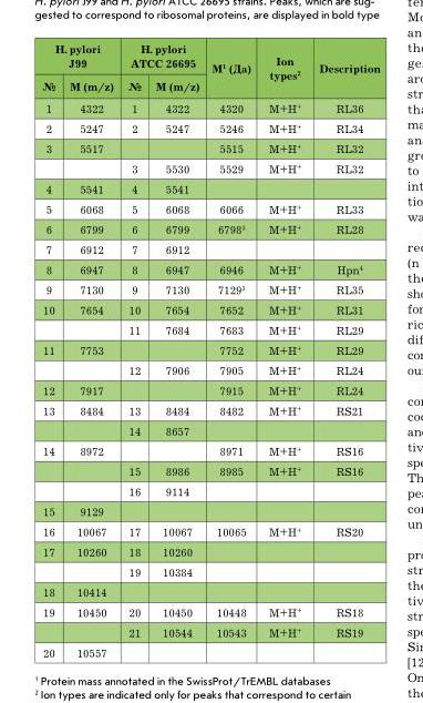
<table><thead><tr><td colspan="2">H. pylori J99</td><td colspan="2">H. pylori АТСС 26695</td><td rowspan="2">M1 (Да)</td><td rowspan="2">Ion types2</td><td rowspan="2">Description</td></tr><tr><td>№</td><td>M (m/z)</td><td>№</td><td>M (m/z)</td></tr></thead><tbody><tr><td>1</td><td>4322</td><td>1</td><td>4322</td><td>4320</td><td>M+H<sup>+</sup></td><td>rL36</td></tr><tr><td>2</td><td>5247</td><td>2</td><td>5247</td><td>5246</td><td>M+H<sup>+</sup></td><td>rL34</td></tr><tr><td rowspan="2">3</td><td>5517</td><td></td><td></td><td>5515</td><td>M+H<sup>+</sup></td><td>rL32</td></tr><tr><td></td><td>3</td><td>5530</td><td>5529</td><td>M+H<sup>+</sup></td><td>rL32</td></tr><tr><td>4</td><td>5541</td><td>4</td><td>5541</td><td></td><td></td><td></td></tr><tr><td>5</td><td>6068</td><td>5</td><td>6068</td><td>6066</td><td>M+H<sup>+</sup></td><td>rL33</td></tr><tr><td>6</td><td>6799</td><td>6</td><td>6799</td><td>6798<sup>3</sup></td><td>M+H<sup>+</sup></td><td>rL28</td></tr><tr><td>7</td><td>6912</td><td>7</td><td>6912</td><td></td><td></td><td></td></tr><tr><td>8</td><td>6947</td><td>8</td><td>6947</td><td>6946</td><td>M+H<sup>+</sup></td><td>Hpn<sup>4</sup></td></tr><tr><td>9</td><td>7130</td><td>9</td><td>7130</td><td>7129<sup>3</sup></td><td>M+H<sup>+</sup></td><td>rL35</td></tr><tr><td rowspan="2">10</td><td>7654</td><td>10</td><td>7654</td><td>7652</td><td>M+H<sup>+</sup></td><td>rL31</td></tr><tr><td></td><td>11</td><td>7684</td><td>7683</td><td>M+H<sup>+</sup></td><td>rL29</td></tr><tr><td rowspan="2">11</td><td>7753</td><td></td><td></td><td>7752</td><td>M+H<sup>+</sup></td><td>rL29</td></tr><tr><td></td><td>12</td><td>7906</td><td>7905</td><td>M+H<sup>+</sup></td><td>rL24</td></tr><tr><td>12</td><td>7917</td><td></td><td></td><td>7915</td><td>M+H<sup>+</sup></td><td>rL24</td></tr><tr><td rowspan="2">13</td><td>8484</td><td>13</td><td>8484</td><td>8482</td><td>M+H<sup>+</sup></td><td>rS21</td></tr><tr><td></td><td>14</td><td>8657</td><td></td><td></td><td></td></tr><tr><td rowspan="3">14</td><td>8972</td><td></td><td></td><td>8971</td><td>M+H<sup>+</sup></td><td>rS16</td></tr><tr><td></td><td>15</td><td>8986</td><td>8985</td><td>M+H<sup>+</sup></td><td>rS16</td></tr><tr><td></td><td>16</td><td>9114</td><td></td><td></td><td></td></tr><tr><td>15</td><td>9129</td><td></td><td></td><td></td><td></td><td></td></tr><tr><td>16</td><td>10067</td><td>17</td><td>10067</td><td>10065</td><td>M+H<sup>+</sup></td><td>rS20</td></tr><tr><td rowspan="2">17</td><td>10260</td><td>18</td><td>10260</td><td></td><td></td><td></td></tr><tr><td></td><td>19</td><td>10384</td><td></td><td></td><td></td></tr><tr><td>18</td><td>10414</td><td></td><td></td><td></td><td></td><td></td></tr><tr><td rowspan="2">19</td><td>10450</td><td>20</td><td>10450</td><td>10448</td><td>M+H<sup>+</sup></td><td>rS18</td></tr><tr><td></td><td>21</td><td>10544</td><td>10543</td><td>M+H<sup>+</sup></td><td>rS19</td></tr><tr><td>20</td><td>10557</td><td></td><td></td><td></td><td></td><td></td></tr></tbody></table>